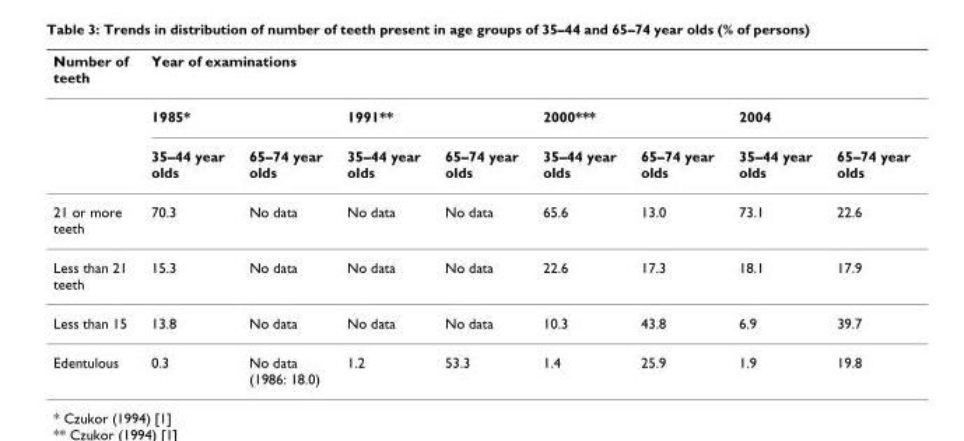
<table><thead><tr><td rowspan="3">Number of teeth</td><td colspan="8">Year of examinations</td></tr><tr><td colspan="2">1985*</td><td colspan="2">1991**</td><td colspan="2">2000***</td><td colspan="2">2004</td></tr><tr><td>35–44 year olds</td><td>65–74 year olds</td><td>35–44 year olds</td><td>65–74 year olds</td><td>35–44 year olds</td><td>65–74 year olds</td><td>35–44 year olds</td><td>65–74 year olds</td></tr></thead><tbody><tr><td>21 or more teeth</td><td>70.3</td><td>No data</td><td>No data</td><td>No data</td><td>65.6</td><td>13.0</td><td>73.1</td><td>22.6</td></tr><tr><td>Less than 21 teeth</td><td>15.3</td><td>No data</td><td>No data</td><td>No data</td><td>22.6</td><td>17.3</td><td>18.1</td><td>17.9</td></tr><tr><td>Less than 15</td><td>13.8</td><td>No data</td><td>No data</td><td>No data</td><td>10.3</td><td>43.8</td><td>6.9</td><td>39.7</td></tr><tr><td>Edentulous</td><td>0.3</td><td>No data (1986: 18.0)</td><td>1.2</td><td>53.3</td><td>1.4</td><td>25.9</td><td>1.9</td><td>19.8</td></tr></tbody></table>